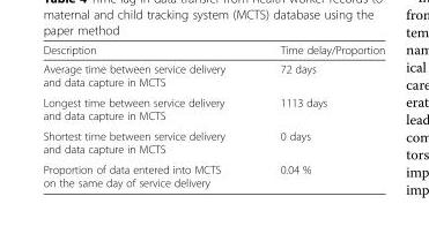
<table><thead><tr><td>Description</td><td>Time delay/Proportion</td></tr></thead><tbody><tr><td>Average time between service delivery and data capture in MCTS</td><td>72 days</td></tr><tr><td>Longest time between service delivery and data capture in MCTS</td><td>1113 days</td></tr><tr><td>Shortest time between service delivery and data capture in MCTS</td><td>0 days</td></tr><tr><td>Proportion of data entered into MCTS on the same day of service delivery</td><td>0.04 %</td></tr></tbody></table>